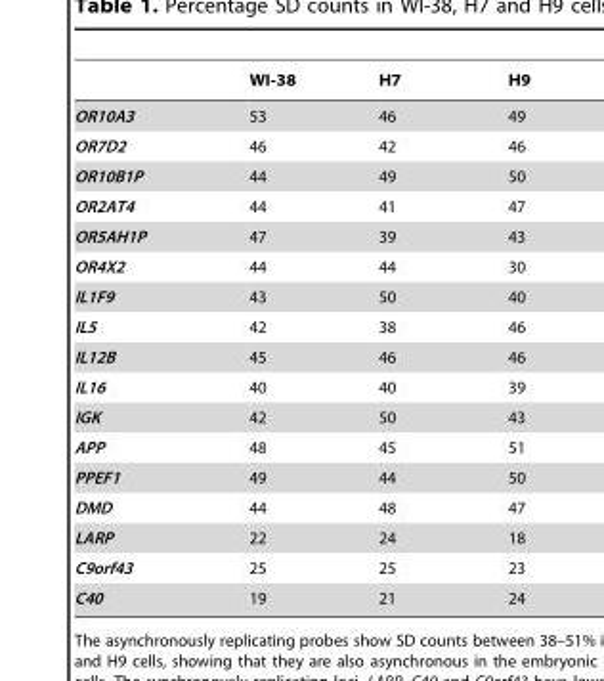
<table><thead><tr><td></td><td>WI-38</td><td>H7</td><td>H9</td></tr></thead><tbody><tr><td>OR10A3</td><td>53</td><td>46</td><td>49</td></tr><tr><td>OR7D2</td><td>46</td><td>42</td><td>46</td></tr><tr><td>OR10B1P</td><td>44</td><td>49</td><td>50</td></tr><tr><td>OR2AT4</td><td>44</td><td>41</td><td>47</td></tr><tr><td>OR5AH1P</td><td>47</td><td>39</td><td>43</td></tr><tr><td>OR4X2</td><td>44</td><td>44</td><td>30</td></tr><tr><td>IL1F9</td><td>43</td><td>50</td><td>40</td></tr><tr><td>IL5</td><td>42</td><td>38</td><td>46</td></tr><tr><td>IL12B</td><td>45</td><td>46</td><td>46</td></tr><tr><td>IL16</td><td>40</td><td>40</td><td>39</td></tr><tr><td>IGK</td><td>42</td><td>50</td><td>43</td></tr><tr><td>APP</td><td>48</td><td>45</td><td>51</td></tr><tr><td>PPEF1</td><td>49</td><td>44</td><td>50</td></tr><tr><td>DMD</td><td>44</td><td>48</td><td>47</td></tr><tr><td>LARP</td><td>22</td><td>24</td><td>18</td></tr><tr><td>C9orf43</td><td>25</td><td>25</td><td>23</td></tr><tr><td>C40</td><td>19</td><td>21</td><td>24</td></tr></tbody></table>